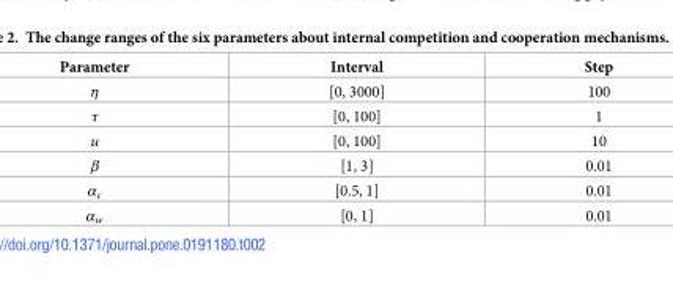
<table><thead><tr><td>Parameter</td><td>Interval</td><td>Step</td></tr></thead><tbody><tr><td>η</td><td>[0, 3000]</td><td>100</td></tr><tr><td>τ</td><td>[0, 100]</td><td>1</td></tr><tr><td>u</td><td>[0, 100]</td><td>10</td></tr><tr><td>β</td><td>[1, 3]</td><td>0.01</td></tr><tr><td>α<sub>c</sub></td><td>[0.5, 1]</td><td>0.01</td></tr><tr><td>α<sub>w</sub></td><td>[0, 1]</td><td>0.01</td></tr></tbody></table>